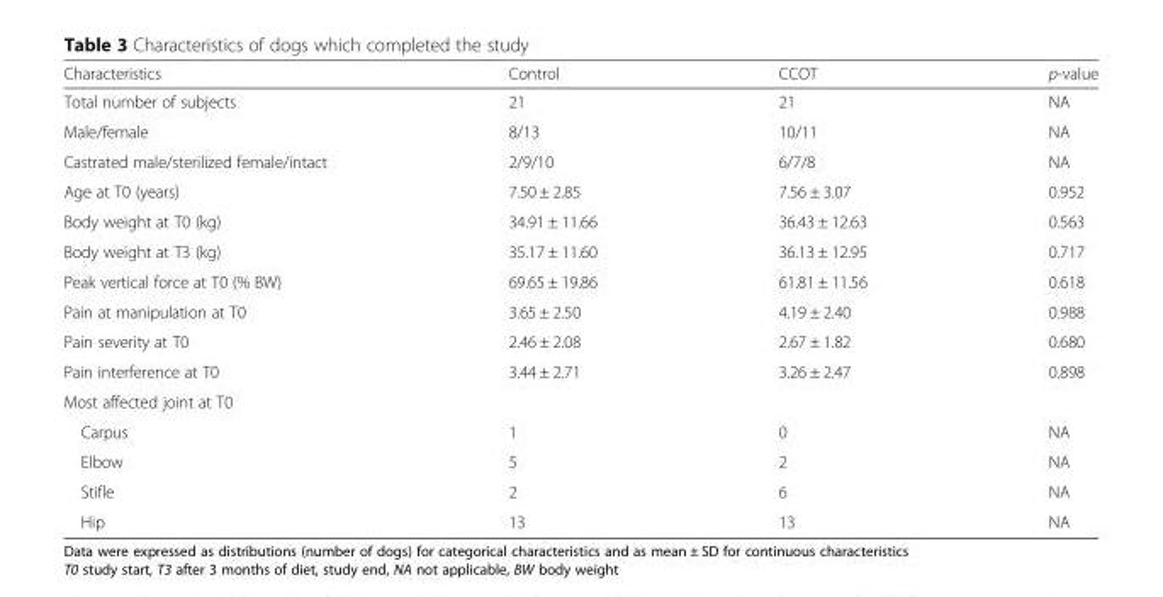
<table><thead><tr><td>Characteristics</td><td>Control</td><td>CCOT</td><td>p-value</td></tr></thead><tbody><tr><td>Total number of subjects</td><td>21</td><td>21</td><td>NA</td></tr><tr><td>Male/female</td><td>8/13</td><td>10/11</td><td>NA</td></tr><tr><td>Castrated male/sterilized female/intact</td><td>2/9/10</td><td>6/7/8</td><td>NA</td></tr><tr><td>Age at T0 (years)</td><td>7.50 ± 2.85</td><td>7.56 ± 3.07</td><td>0.952</td></tr><tr><td>Body weight at T0 (kg)</td><td>34.91 ± 11.66</td><td>36.43 ± 12.63</td><td>0.563</td></tr><tr><td>Body weight at T3 (kg)</td><td>35.17 ± 11.60</td><td>36.13 ± 12.95</td><td>0.717</td></tr><tr><td>Peak vertical force at T0 (% BW)</td><td>69.65 ± 19.86</td><td>61.81 ± 11.56</td><td>0.618</td></tr><tr><td>Pain at manipulation at T0</td><td>3.65 ± 2.50</td><td>4.19 ± 2.40</td><td>0.988</td></tr><tr><td>Pain severity at T0</td><td>2.46 ± 2.08</td><td>2.67 ± 1.82</td><td>0.680</td></tr><tr><td>Pain interference at T0</td><td>3.44 ± 2.71</td><td>3.26 ± 2.47</td><td>0.898</td></tr><tr><td colspan="4">Most affected joint at T0</td></tr><tr><td>Carpus</td><td>1</td><td>0</td><td>NA</td></tr><tr><td>Elbow</td><td>5</td><td>2</td><td>NA</td></tr><tr><td>Stifle</td><td>2</td><td>6</td><td>NA</td></tr><tr><td>Hip</td><td>13</td><td>13</td><td>NA</td></tr></tbody></table>